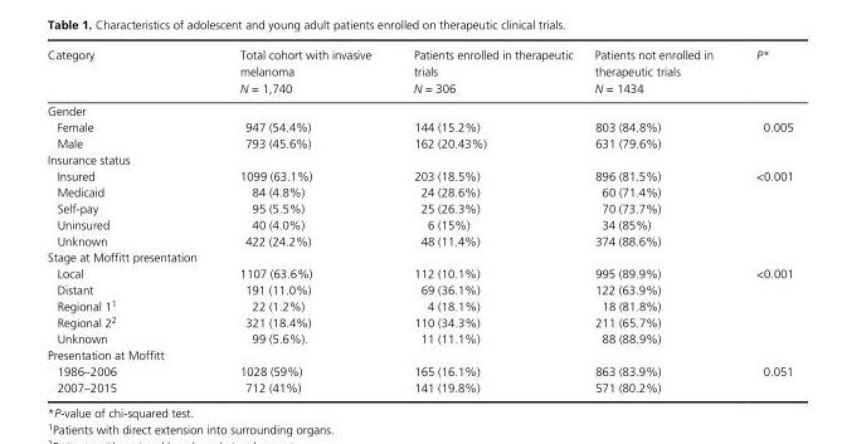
<table><thead><tr><td>Category</td><td>Total cohort with invasive melanoma N = 1,740</td><td>Patients enrolled in therapeutic trials N = 306</td><td>Patients not enrolled in therapeutic trials N = 1434</td><td>P*</td></tr></thead><tbody><tr><td colspan="5">Gender</td></tr><tr><td>Female</td><td>947 (54.4%)</td><td>144 (15.2%)</td><td>803 (84.8%)</td><td>0.005</td></tr><tr><td>Male</td><td>793 (45.6%)</td><td>162 (20.43%)</td><td>631 (79.6%)</td><td></td></tr><tr><td colspan="5">Insurance status</td></tr><tr><td>Insured</td><td>1099 (63.1%)</td><td>203 (18.5%)</td><td>896 (81.5%)</td><td>&lt;0.001</td></tr><tr><td>Medicaid</td><td>84 (4.8%)</td><td>24 (28.6%)</td><td>60 (71.4%)</td><td></td></tr><tr><td>Self- pay</td><td>95 (5.5%)</td><td>25 (26.3%)</td><td>70 (73.7%)</td><td></td></tr><tr><td>Uninsured</td><td>40 (4.0%)</td><td>6 (15%)</td><td>34 (85%)</td><td></td></tr><tr><td>Unknown</td><td>422 (24.2%)</td><td>48 (11.4%)</td><td>374 (88.6%)</td><td></td></tr><tr><td colspan="5">Stage at Moffitt presentation</td></tr><tr><td>Local</td><td>1107 (63.6%)</td><td>112 (10.1%)</td><td>995 (89.9%)</td><td>&lt;0.001</td></tr><tr><td>Distant</td><td>191 (11.0%)</td><td>69 (36.1%)</td><td>122 (63.9%)</td><td></td></tr><tr><td>Regional 11</td><td>22 (1.2%)</td><td>4 (18.1%)</td><td>18 (81.8%)</td><td></td></tr><tr><td>Regional 22</td><td>321 (18.4%)</td><td>110 (34.3%)</td><td>211 (65.7%)</td><td></td></tr><tr><td>Unknown</td><td>99 (5.6%).</td><td>11 (11.1%)</td><td>88 (88.9%)</td><td></td></tr><tr><td colspan="5">Presentation at Moffitt</td></tr><tr><td>1986–2006</td><td>1028 (59%)</td><td>165 (16.1%)</td><td>863 (83.9%)</td><td>0.051</td></tr><tr><td>2007–2015</td><td>712 (41%)</td><td>141 (19.8%)</td><td>571 (80.2%)</td><td></td></tr></tbody></table>